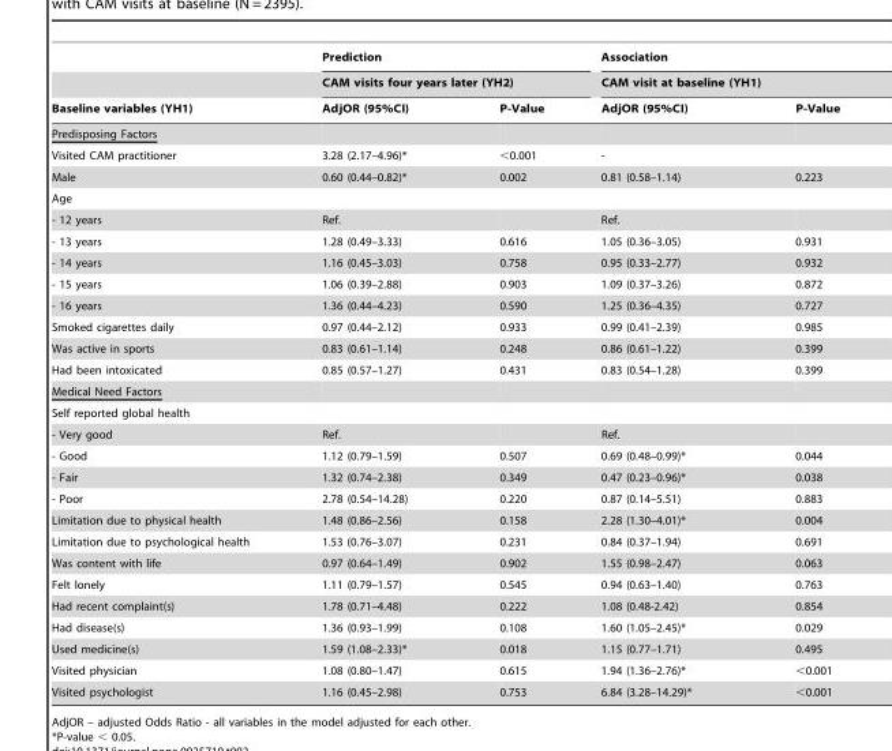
<table><thead><tr><td rowspan="3">Baseline variables (YH1)</td><td rowspan="2" colspan="2">Prediction CAM visits four years later (YH2)</td><td rowspan="2" colspan="2">Association CAM visit at baseline (YH1)</td></tr><tr></tr><tr><td>AdjOR (95%CI)</td><td>P-Value</td><td>AdjOR (95%CI)</td><td>P-Value</td></tr></thead><tbody><tr><td colspan="5">Predisposing Factors</td></tr><tr><td>Visited CAM practitioner</td><td>3.28 (2.17–4.96)*</td><td>&lt;0.001</td><td>-</td><td></td></tr><tr><td>Male</td><td>0.60 (0.44–0.82)*</td><td>0.002</td><td>0.81 (0.58–1.14)</td><td>0.223</td></tr><tr><td colspan="5">Age</td></tr><tr><td>- 12 years</td><td>Ref.</td><td></td><td>Ref.</td><td></td></tr><tr><td>- 13 years</td><td>1.28 (0.49–3.33)</td><td>0.616</td><td>1.05 (0.36–3.05)</td><td>0.931</td></tr><tr><td>- 14 years</td><td>1.16 (0.45–3.03)</td><td>0.758</td><td>0.95 (0.33–2.77)</td><td>0.932</td></tr><tr><td>- 15 years</td><td>1.06 (0.39–2.88)</td><td>0.903</td><td>1.09 (0.37–3.26)</td><td>0.872</td></tr><tr><td>- 16 years</td><td>1.36 (0.44–4.23)</td><td>0.590</td><td>1.25 (0.36–4.35)</td><td>0.727</td></tr><tr><td>Smoked cigarettes daily</td><td>0.97 (0.44–2.12)</td><td>0.933</td><td>0.99 (0.41–2.39)</td><td>0.985</td></tr><tr><td>Was active in sports</td><td>0.83 (0.61–1.14)</td><td>0.248</td><td>0.86 (0.61–1.22)</td><td>0.399</td></tr><tr><td>Had been intoxicated</td><td>0.85 (0.57–1.27)</td><td>0.431</td><td>0.83 (0.54–1.28)</td><td>0.399</td></tr><tr><td colspan="5">Medical Need Factors</td></tr><tr><td colspan="5">Self reported global health</td></tr><tr><td>- Very good</td><td>Ref.</td><td></td><td>Ref.</td><td></td></tr><tr><td>- Good</td><td>1.12 (0.79–1.59)</td><td>0.507</td><td>0.69 (0.48–0.99)*</td><td>0.044</td></tr><tr><td>- Fair</td><td>1.32 (0.74–2.38)</td><td>0.349</td><td>0.47 (0.23–0.96)*</td><td>0.038</td></tr><tr><td>- Poor</td><td>2.78 (0.54–14.28)</td><td>0.220</td><td>0.87 (0.14–5.51)</td><td>0.883</td></tr><tr><td>Limitation due to physical health</td><td>1.48 (0.86–2.56)</td><td>0.158</td><td>2.28 (1.30–4.01)*</td><td>0.004</td></tr><tr><td>Limitation due to psychological health</td><td>1.53 (0.76–3.07)</td><td>0.231</td><td>0.84 (0.37–1.94)</td><td>0.691</td></tr><tr><td>Was content with life</td><td>0.97 (0.64–1.49)</td><td>0.902</td><td>1.55 (0.98–2.47)</td><td>0.063</td></tr><tr><td>Felt lonely</td><td>1.11 (0.79–1.57)</td><td>0.545</td><td>0.94 (0.63–1.40)</td><td>0.763</td></tr><tr><td>Had recent complaint(s)</td><td>1.78 (0.71–4.48)</td><td>0.222</td><td>1.08 (0.48-2.42)</td><td>0.854</td></tr><tr><td>Had disease(s)</td><td>1.36 (0.93–1.99)</td><td>0.108</td><td>1.60 (1.05–2.45)*</td><td>0.029</td></tr><tr><td>Used medicine(s)</td><td>1.59 (1.08–2.33)*</td><td>0.018</td><td>1.15 (0.77–1.71)</td><td>0.495</td></tr><tr><td>Visited physician</td><td>1.08 (0.80–1.47)</td><td>0.615</td><td>1.94 (1.36–2.76)*</td><td>&lt;0.001</td></tr><tr><td>Visited psychologist</td><td>1.16 (0.45–2.98)</td><td>0.753</td><td>6.84 (3.28–14.29)*</td><td>&lt;0.001</td></tr></tbody></table>